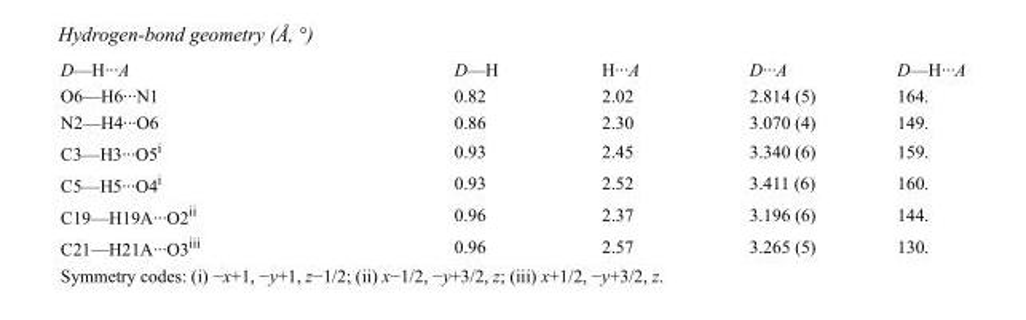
<table><tbody><tr><td>D—H···A</td><td>D—H</td><td>H···A</td><td>D···A</td><td>D—H···A</td></tr><tr><td>O6—H6···N1</td><td>0.82</td><td>2.02</td><td>2.814 (5)</td><td>164.</td></tr><tr><td>N2—H4···O6</td><td>0.86</td><td>2.30</td><td>3.070 (4)</td><td>149.</td></tr><tr><td>C3—H3···O5<sup>i</sup></td><td>0.93</td><td>2.45</td><td>3.340 (6)</td><td>159.</td></tr><tr><td>C5—H5···O4<sup>i</sup></td><td>0.93</td><td>2.52</td><td>3.411 (6)</td><td>160.</td></tr><tr><td>C19—H19A···O2<sup>ii</sup></td><td>0.96</td><td>2.37</td><td>3.196 (6)</td><td>144.</td></tr><tr><td>C21—H21A···O3<sup>iii</sup></td><td>0.96</td><td>2.57</td><td>3.265 (5)</td><td>130.</td></tr></tbody></table>